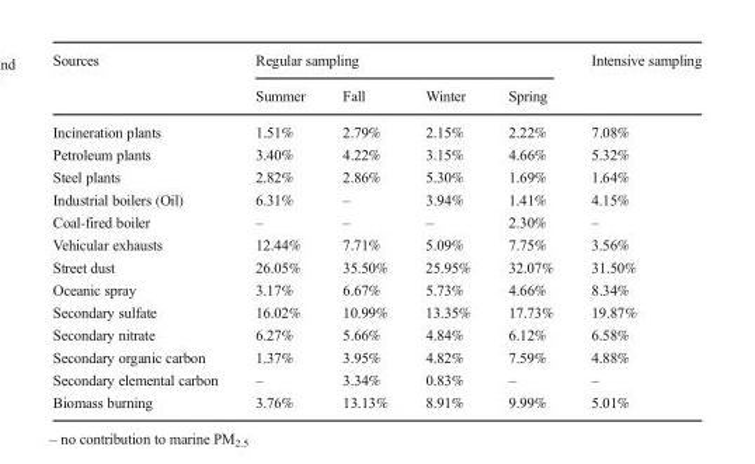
<table><thead><tr><td rowspan="2">Sources</td><td colspan="4">Regular sampling</td><td rowspan="2">Intensive sampling</td></tr><tr><td>Summer</td><td>Fall</td><td>Winter</td><td>Spring</td></tr></thead><tbody><tr><td>Incineration plants</td><td>1.51%</td><td>2.79%</td><td>2.15%</td><td>2.22%</td><td>7.08%</td></tr><tr><td>Petroleum plants</td><td>3.40%</td><td>4.22%</td><td>3.15%</td><td>4.66%</td><td>5.32%</td></tr><tr><td>Steel plants</td><td>2.82%</td><td>2.86%</td><td>5.30%</td><td>1.69%</td><td>1.64%</td></tr><tr><td>Industrial boilers (Oil)</td><td>6.31%</td><td>–</td><td>3.94%</td><td>1.41%</td><td>4.15%</td></tr><tr><td>Coal-fired boiler</td><td>–</td><td>–</td><td>–</td><td>2.30%</td><td>–</td></tr><tr><td>Vehicular exhausts</td><td>12.44%</td><td>7.71%</td><td>5.09%</td><td>7.75%</td><td>3.56%</td></tr><tr><td>Street dust</td><td>26.05%</td><td>35.50%</td><td>25.95%</td><td>32.07%</td><td>31.50%</td></tr><tr><td>Oceanic spray</td><td>3.17%</td><td>6.67%</td><td>5.73%</td><td>4.66%</td><td>8.34%</td></tr><tr><td>Secondary sulfate</td><td>16.02%</td><td>10.99%</td><td>13.35%</td><td>17.73%</td><td>19.87%</td></tr><tr><td>Secondary nitrate</td><td>6.27%</td><td>5.66%</td><td>4.84%</td><td>6.12%</td><td>6.58%</td></tr><tr><td>Secondary organic carbon</td><td>1.37%</td><td>3.95%</td><td>4.82%</td><td>7.59%</td><td>4.88%</td></tr><tr><td>Secondary elemental carbon</td><td>–</td><td>3.34%</td><td>0.83%</td><td>–</td><td>–</td></tr><tr><td>Biomass burning</td><td>3.76%</td><td>13.13%</td><td>8.91%</td><td>9.99%</td><td>5.01%</td></tr></tbody></table>